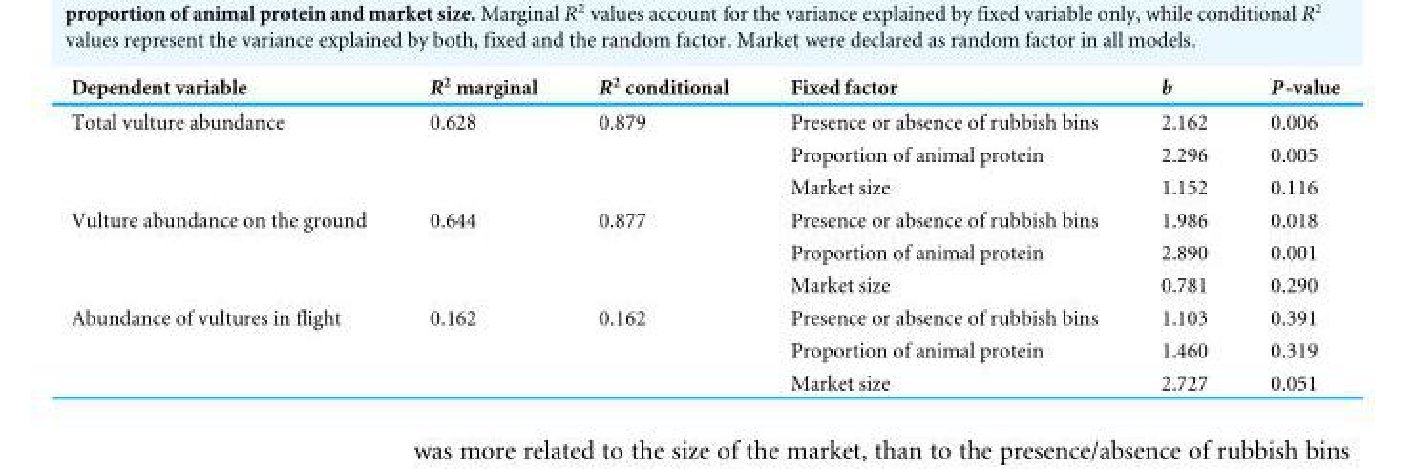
<table><thead><tr><td>Dependent variable</td><td>R<sup>2</sup> marginal</td><td>R<sup>2</sup> conditional</td><td>Fixed factor</td><td>b</td><td>P-value</td></tr></thead><tbody><tr><td rowspan="3">Total vulture abundance</td><td>0.628</td><td>0.879</td><td>Presence or absence of rubbish bins</td><td>2.162</td><td>0.006</td></tr><tr><td></td><td></td><td>Proportion of animal protein</td><td>2.296</td><td>0.005</td></tr><tr><td></td><td></td><td>Market size</td><td>1.152</td><td>0.116</td></tr><tr><td rowspan="3">Vulture abundance on the ground</td><td>0.644</td><td>0.877</td><td>Presence or absence of rubbish bins</td><td>1.986</td><td>0.018</td></tr><tr><td></td><td></td><td>Proportion of animal protein</td><td>2.890</td><td>0.001</td></tr><tr><td></td><td></td><td>Market size</td><td>0.781</td><td>0.290</td></tr><tr><td rowspan="3">Abundance of vultures in flight</td><td>0.162</td><td>0.162</td><td>Presence or absence of rubbish bins</td><td>1.103</td><td>0.391</td></tr><tr><td></td><td></td><td>Proportion of animal protein</td><td>1.460</td><td>0.319</td></tr><tr><td></td><td></td><td>Market size</td><td>2.727</td><td>0.051</td></tr></tbody></table>